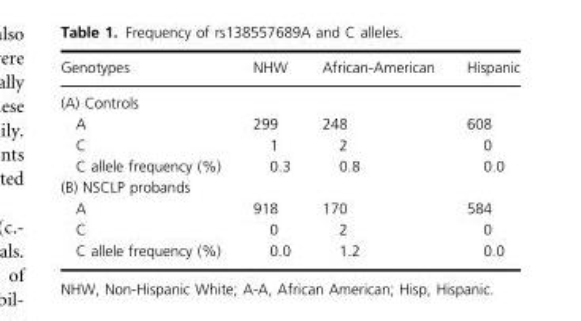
<table><thead><tr><td>Genotypes</td><td>NHW</td><td>African-American</td><td>Hispanic</td></tr></thead><tbody><tr><td colspan="4">(A) Controls</td></tr><tr><td>A</td><td>299</td><td>248</td><td>608</td></tr><tr><td>C</td><td>1</td><td>2</td><td>0</td></tr><tr><td>C allele frequency (%)</td><td>0.3</td><td>0.8</td><td>0.0</td></tr><tr><td colspan="4">(B) NSCLP probands</td></tr><tr><td>A</td><td>918</td><td>170</td><td>584</td></tr><tr><td>C</td><td>0</td><td>2</td><td>0</td></tr><tr><td>C allele frequency (%)</td><td>0.0</td><td>1.2</td><td>0.0</td></tr></tbody></table>